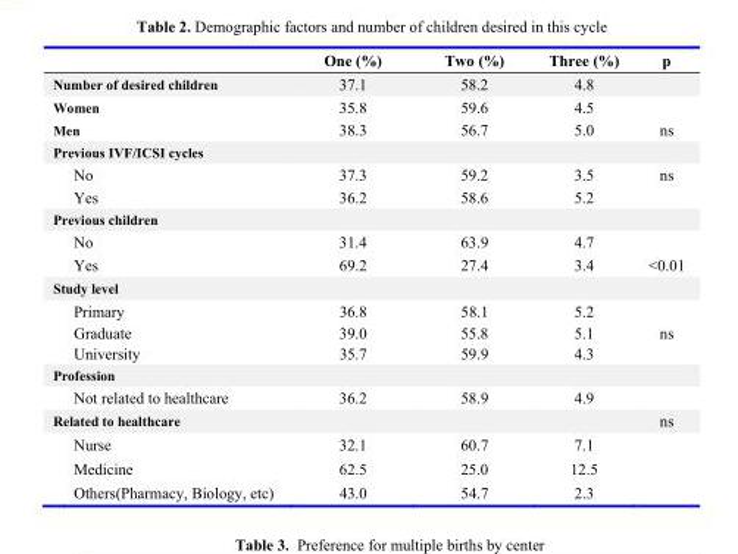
<table><thead><tr><td></td><td>One (%)</td><td>Two (%)</td><td>Three (%)</td><td>p</td></tr></thead><tbody><tr><td>Number of desired children</td><td>37.1</td><td>58.2</td><td>4.8</td><td></td></tr><tr><td>Women</td><td>35.8</td><td>59.6</td><td>4.5</td><td></td></tr><tr><td>Men</td><td>38.3</td><td>56.7</td><td>5.0</td><td>ns</td></tr><tr><td colspan="5">Previous IVF/ICSI cycles</td></tr><tr><td>No</td><td>37.3</td><td>59.2</td><td>3.5</td><td>ns</td></tr><tr><td>Yes</td><td>36.2</td><td>58.6</td><td>5.2</td><td></td></tr><tr><td colspan="5">Previous children</td></tr><tr><td>No</td><td>31.4</td><td>63.9</td><td>4.7</td><td></td></tr><tr><td>Yes</td><td>69.2</td><td>27.4</td><td>3.4</td><td>&lt;0.01</td></tr><tr><td colspan="5">Study level</td></tr><tr><td>Primary</td><td>36.8</td><td>58.1</td><td>5.2</td><td></td></tr><tr><td>Graduate</td><td>39.0</td><td>55.8</td><td>5.1</td><td>ns</td></tr><tr><td>University</td><td>35.7</td><td>59.9</td><td>4.3</td><td></td></tr><tr><td colspan="5">Profession</td></tr><tr><td>Not related to healthcare</td><td>36.2</td><td>58.9</td><td>4.9</td><td></td></tr><tr><td>Related to healthcare</td><td></td><td></td><td></td><td>ns</td></tr><tr><td>Nurse</td><td>32.1</td><td>60.7</td><td>7.1</td><td></td></tr><tr><td>Medicine</td><td>62.5</td><td>25.0</td><td>12.5</td><td></td></tr><tr><td>Others(Pharmacy, Biology, etc)</td><td>43.0</td><td>54.7</td><td>2.3</td><td></td></tr></tbody></table>